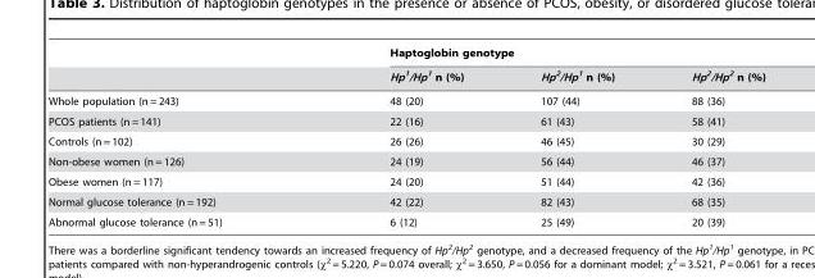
<table><thead><tr><td rowspan="2"></td><td colspan="3">Haptoglobin genotype</td></tr><tr><td>Hp<sup>1</sup>/Hp<sup>1</sup> n (%)</td><td>Hp<sup>2</sup>/Hp<sup>1</sup> n (%)</td><td>Hp<sup>2</sup>/Hp<sup>2</sup> n (%)</td></tr></thead><tbody><tr><td>Whole population (n = 243)</td><td>48 (20)</td><td>107 (44)</td><td>88 (36)</td></tr><tr><td>PCOS patients (n = 141)</td><td>22 (16)</td><td>61 (43)</td><td>58 (41)</td></tr><tr><td>Controls (n = 102)</td><td>26 (26)</td><td>46 (45)</td><td>30 (29)</td></tr><tr><td>Non-obese women (n = 126)</td><td>24 (19)</td><td>56 (44)</td><td>46 (37)</td></tr><tr><td>Obese women (n = 117)</td><td>24 (20)</td><td>51 (44)</td><td>42 (36)</td></tr><tr><td>Normal glucose tolerance (n = 192)</td><td>42 (22)</td><td>82 (43)</td><td>68 (35)</td></tr><tr><td>Abnormal glucose tolerance (n = 51)</td><td>6 (12)</td><td>25 (49)</td><td>20 (39)</td></tr></tbody></table>